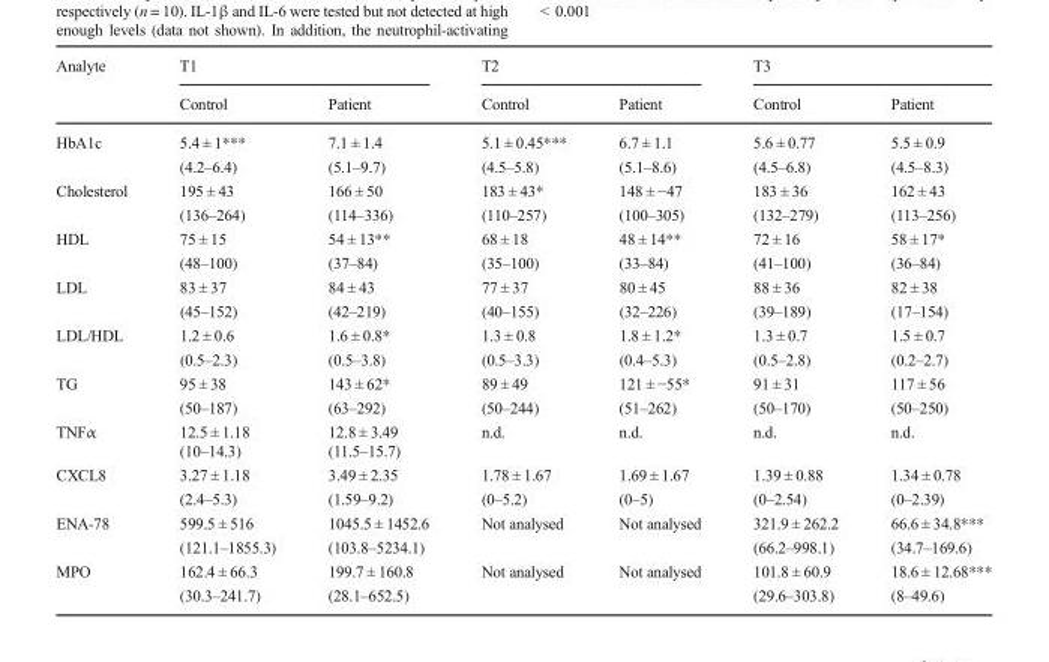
<table><thead><tr><td rowspan="2">Analyte</td><td colspan="2">T1</td><td colspan="2">T2</td><td colspan="2">T3</td></tr><tr><td>Control</td><td>Patient</td><td>Control</td><td>Patient</td><td>Control</td><td>Patient</td></tr></thead><tbody><tr><td rowspan="2">HbA1c</td><td>5.4 ± 1***</td><td>7.1 ± 1.4</td><td>5.1 ± 0.45***</td><td>6.7 ± 1.1</td><td>5.6 ± 0.77</td><td>5.5 ± 0.9</td></tr><tr><td>(4.2–6.4)</td><td>(5.1–9.7)</td><td>(4.5–5.8)</td><td>(5.1–8.6)</td><td>(4.5–6.8)</td><td>(4.5–8.3)</td></tr><tr><td rowspan="2">Cholesterol</td><td>195 ± 43</td><td>166 ± 50</td><td>183 ± 43*</td><td>148 ± −47</td><td>183 ± 36</td><td>162 ± 43</td></tr><tr><td>(136–264)</td><td>(114–336)</td><td>(110–257)</td><td>(100–305)</td><td>(132–279)</td><td>(113–256)</td></tr><tr><td rowspan="2">HDL</td><td>75 ± 15</td><td>54 ± 13**</td><td>68 ± 18</td><td>48 ± 14**</td><td>72 ± 16</td><td>58 ± 17*</td></tr><tr><td>(48–100)</td><td>(37–84)</td><td>(35–100)</td><td>(33–84)</td><td>(41–100)</td><td>(36–84)</td></tr><tr><td rowspan="2">LDL</td><td>83 ± 37</td><td>84 ± 43</td><td>77 ± 37</td><td>80 ± 45</td><td>88 ± 36</td><td>82 ± 38</td></tr><tr><td>(45–152)</td><td>(42–219)</td><td>(40–155)</td><td>(32–226)</td><td>(39–189)</td><td>(17–154)</td></tr><tr><td rowspan="2">LDL/HDL</td><td>1.2 ± 0.6</td><td>1.6 ± 0.8*</td><td>1.3 ± 0.8</td><td>1.8 ± 1.2*</td><td>1.3 ± 0.7</td><td>1.5 ± 0.7</td></tr><tr><td>(0.5–2.3)</td><td>(0.5–3.8)</td><td>(0.5–3.3)</td><td>(0.4–5.3)</td><td>(0.5–2.8)</td><td>(0.2–2.7)</td></tr><tr><td rowspan="2">TG</td><td>95 ± 38</td><td>143 ± 62*</td><td>89 ± 49</td><td>121 ± −55*</td><td>91 ± 31</td><td>117 ± 56</td></tr><tr><td>(50–187)</td><td>(63–292)</td><td>(50–244)</td><td>(51–262)</td><td>(50–170)</td><td>(50–250)</td></tr><tr><td rowspan="2">TNFα</td><td>12.5 ± 1.18</td><td>12.8 ± 3.49</td><td rowspan="2">n.d.</td><td rowspan="2">n.d.</td><td rowspan="2">n.d.</td><td rowspan="2">n.d.</td></tr><tr><td>(10–14.3)</td><td>(11.5–15.7)</td></tr><tr><td rowspan="2">CXCL8</td><td>3.27 ± 1.18</td><td>3.49 ± 2.35</td><td>1.78 ± 1.67</td><td>1.69 ± 1.67</td><td>1.39 ± 0.88</td><td>1.34 ± 0.78</td></tr><tr><td>(2.4–5.3)</td><td>(1.59–9.2)</td><td>(0–5.2)</td><td>(0–5)</td><td>(0–2.54)</td><td>(0–2.39)</td></tr><tr><td rowspan="2">ENA-78</td><td>599.5 ± 516</td><td>1045.5 ± 1452.6</td><td rowspan="2">Not analysed</td><td rowspan="2">Not analysed</td><td>321.9 ± 262.2</td><td>66.6 ± 34.8***</td></tr><tr><td>(121.1–1855.3)</td><td>(103.8–5234.1)</td><td>(66.2–998.1)</td><td>(34.7–169.6)</td></tr><tr><td rowspan="2">MPO</td><td>162.4 ± 66.3</td><td>199.7 ± 160.8</td><td rowspan="2">Not analysed</td><td rowspan="2">Not analysed</td><td>101.8 ± 60.9</td><td>18.6 ± 12.68***</td></tr><tr><td>(30.3–241.7)</td><td>(28.1–652.5)</td><td>(29.6–303.8)</td><td>(8–49.6)</td></tr></tbody></table>